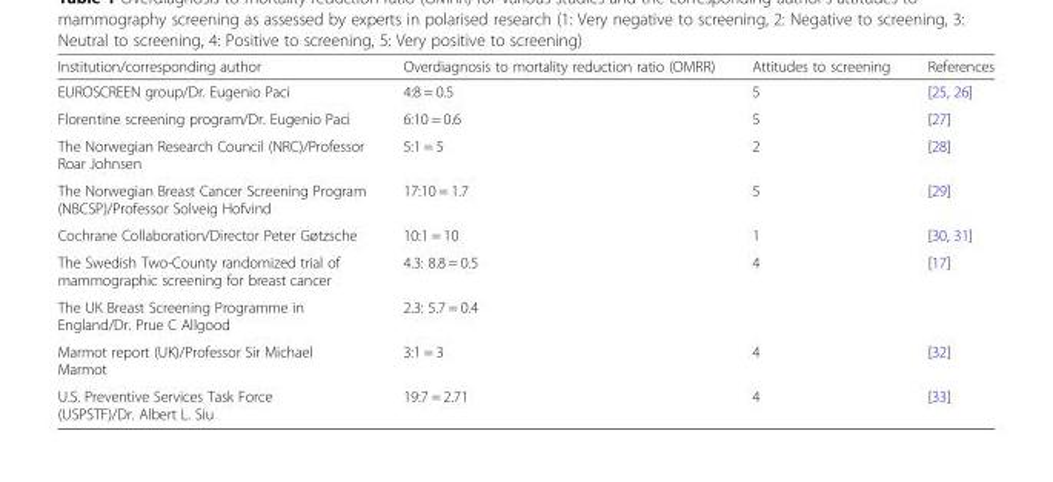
<table><thead><tr><td>Institution/corresponding author</td><td>Overdiagnosis to mortality reduction ratio (OMRR)</td><td>Attitudes to screening</td><td>References</td></tr></thead><tbody><tr><td>EUROSCREEN group/Dr. Eugenio Paci</td><td>4:8 = 0.5</td><td>5</td><td>[25, 26]</td></tr><tr><td>Florentine screening program/Dr. Eugenio Paci</td><td>6:10 = 0.6</td><td>5</td><td>[27]</td></tr><tr><td>The Norwegian Research Council (NRC)/Professor Roar Johnsen</td><td>5:1 = 5</td><td>2</td><td>[28]</td></tr><tr><td>The Norwegian Breast Cancer Screening Program (NBCSP)/Professor Solveig Hofvind</td><td>17:10 = 1.7</td><td>5</td><td>[29]</td></tr><tr><td>Cochrane Collaboration/Director Peter Gøtzsche</td><td>10:1 = 10</td><td>1</td><td>[30, 31]</td></tr><tr><td>The Swedish Two-County randomized trial of mammographic screening for breast cancer</td><td>4.3: 8.8 = 0.5</td><td rowspan="2">4</td><td rowspan="2">[17]</td></tr><tr><td>The UK Breast Screening Programme in England/Dr. Prue C Allgood</td><td>2.3: 5.7 = 0.4</td></tr><tr><td>Marmot report (UK)/Professor Sir Michael Marmot</td><td>3:1 = 3</td><td>4</td><td>[32]</td></tr><tr><td>U.S. Preventive Services Task Force (USPSTF)/Dr. Albert L. Siu</td><td>19:7 = 2.71</td><td>4</td><td>[33]</td></tr></tbody></table>